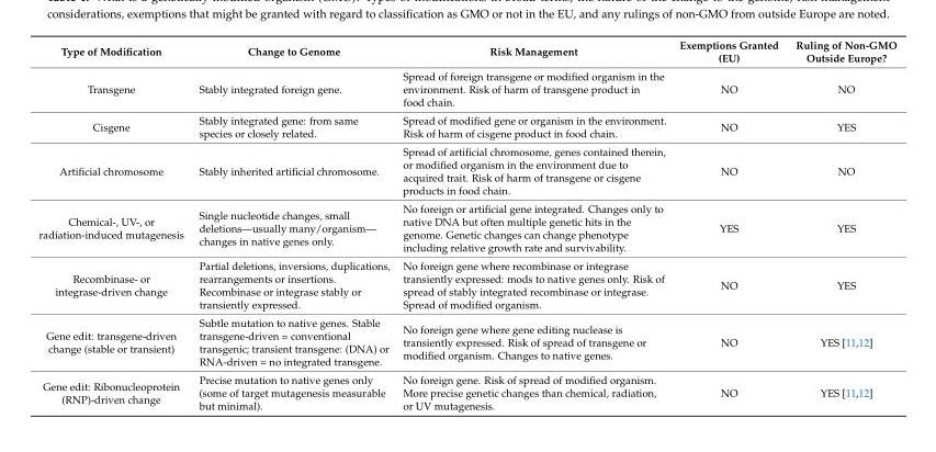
<table><thead><tr><td>Type of Modification</td><td>Change to Genome</td><td>Risk Management</td><td>Exemptions Granted (EU)</td><td>Ruling of Non-GMO Outside Europe?</td></tr></thead><tbody><tr><td>Transgene</td><td>Stably integrated foreign gene.</td><td>Spread of foreign transgene or modified organism in the environment. Risk of harm of transgene product in food chain.</td><td>NO</td><td>NO</td></tr><tr><td>Cisgene</td><td>Stably integrated gene: from same species or closely related.</td><td>Spread of modified gene or organism in the environment. Risk of harm of cisgene product in food chain.</td><td>NO</td><td>YES</td></tr><tr><td>Artificial chromosome</td><td>Stably inherited artificial chromosome.</td><td>Spread of artificial chromosome, genes contained therein, or modified organism in the environment due to acquired trait. Risk of harm of transgene or cisgene products in food chain.</td><td>NO</td><td>NO</td></tr><tr><td>Chemical-, UV-, or radiation-induced mutagenesis</td><td>Single nucleotide changes, small deletions—usually many/organism— changes in native genes only.</td><td>No foreign or artificial gene integrated. Changes only to native DNA but often multiple genetic hits in the genome. Genetic changes can change phenotype including relative growth rate and survivability.</td><td>YES</td><td>YES</td></tr><tr><td>Recombinase- or integrase-driven change</td><td>Partial deletions, inversions, duplications, rearrangements or insertions. Recombinase or integrase stably or transiently expressed.</td><td>No foreign gene where recombinase or integrase transiently expressed: mods to native genes only. Risk of spread of stably integrated recombinase or integrase. Spread of modified organism.</td><td>NO</td><td>YES</td></tr><tr><td>Gene edit: transgene-driven change (stable or transient)</td><td>Subtle mutation to native genes. Stable transgene-driven = conventional transgenic; transient transgene: (DNA) or RNA-driven = no integrated transgene.</td><td>No foreign gene where gene editing nuclease is transiently expressed. Risk of spread of transgene or modified organism. Changes to native genes.</td><td>NO</td><td>YES [11,12]</td></tr><tr><td>Gene edit: Ribonucleoprotein (RNP)-driven change</td><td>Precise mutation to native genes only (some of target mutagenesis measurable but minimal).</td><td>No foreign gene. Risk of spread of modified organism. More precise genetic changes than chemical, radiation, or UV mutagenesis.</td><td>NO</td><td>YES [11,12]</td></tr></tbody></table>